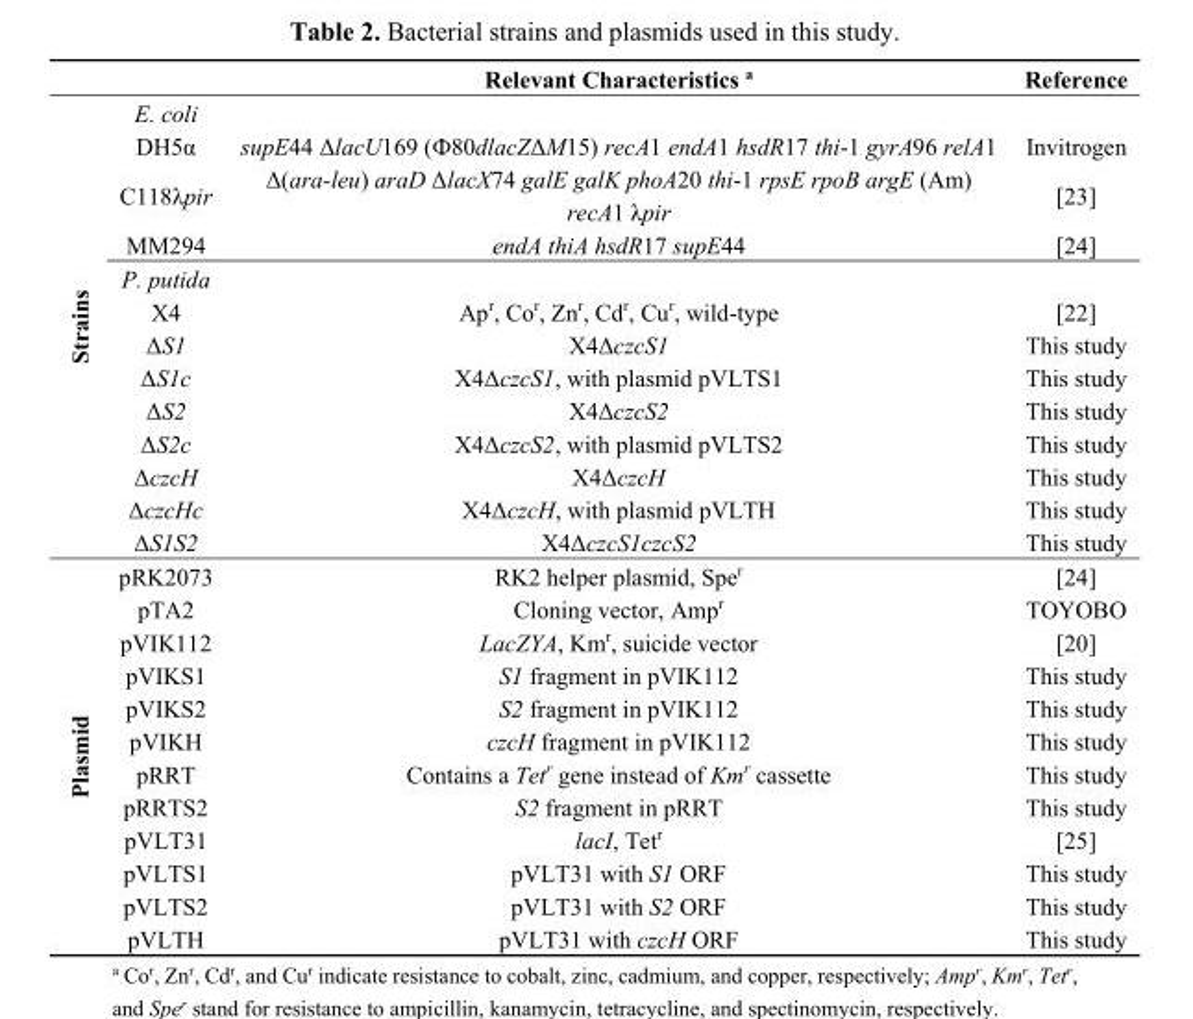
<table><thead><tr><td></td><td></td><td>Relevant Characteristics <sup>a</sup></td><td>Reference</td></tr></thead><tbody><tr><td rowspan="13">Strains</td><td>E. coli</td><td></td><td></td></tr><tr><td>DH5α</td><td>supE44 ΔlacU169 (Ф80dlacZΔM15) recA1 endA1 hsdR17 thi-1 gyrA96 relA1</td><td>Invitrogen</td></tr><tr><td>C118λpir</td><td>Δ(ara-leu) araD ΔlacX74 galE galK phoA20 thi-1 rpsE rpoB argE (Am) recA1 λpir</td><td>[23]</td></tr><tr><td>MM294</td><td>endA thiA hsdR17 supE44</td><td>[24]</td></tr><tr><td>P. putida</td><td></td><td></td></tr><tr><td>X4</td><td>Ap<sup>r</sup>, Co<sup>r</sup>, Zn<sup>r</sup>, Cd<sup>r</sup>, Cu<sup>r</sup>, wild-type</td><td>[22]</td></tr><tr><td>ΔS1</td><td>X4ΔczcS1</td><td>This study</td></tr><tr><td>ΔS1c</td><td>X4ΔczcS1, with plasmid pVLTS1</td><td>This study</td></tr><tr><td>ΔS2</td><td>X4ΔczcS2</td><td>This study</td></tr><tr><td>ΔS2c</td><td>X4ΔczcS2, with plasmid pVLTS2</td><td>This study</td></tr><tr><td>ΔczcH</td><td>X4ΔczcH</td><td>This study</td></tr><tr><td>ΔczcHc</td><td>X4ΔczcH, with plasmid pVLTH</td><td>This study</td></tr><tr><td>ΔS1S2</td><td>X4ΔczcS1czcS2</td><td>This study</td></tr><tr><td rowspan="12">Plasmid</td><td>pRK2073</td><td>RK2 helper plasmid, Spe<sup>r</sup></td><td>[24]</td></tr><tr><td>pTA2</td><td>Cloning vector, Amp<sup>r</sup></td><td>TOYOBO</td></tr><tr><td>pVIK112</td><td>LacZYA, Km<sup>r</sup>, suicide vector</td><td>[20]</td></tr><tr><td>pVIKS1</td><td>S1 fragment in pVIK112</td><td>This study</td></tr><tr><td>pVIKS2</td><td>S2 fragment in pVIK112</td><td>This study</td></tr><tr><td>pVIKH</td><td>czcH fragment in pVIK112</td><td>This study</td></tr><tr><td>pRRT</td><td>Contains a Tet<sup>r</sup> gene instead of Km<sup>r</sup> cassette</td><td>This study</td></tr><tr><td>pRRTS2</td><td>S2 fragment in pRRT</td><td>This study</td></tr><tr><td>pVLT31</td><td>lacI, Tet<sup>r</sup></td><td>[25]</td></tr><tr><td>pVLTS1</td><td>pVLT31 with S1 ORF</td><td>This study</td></tr><tr><td>pVLTS2</td><td>pVLT31 with S2 ORF</td><td>This study</td></tr><tr><td>pVLTH</td><td>pVLT31 with czcH ORF</td><td>This study</td></tr></tbody></table>